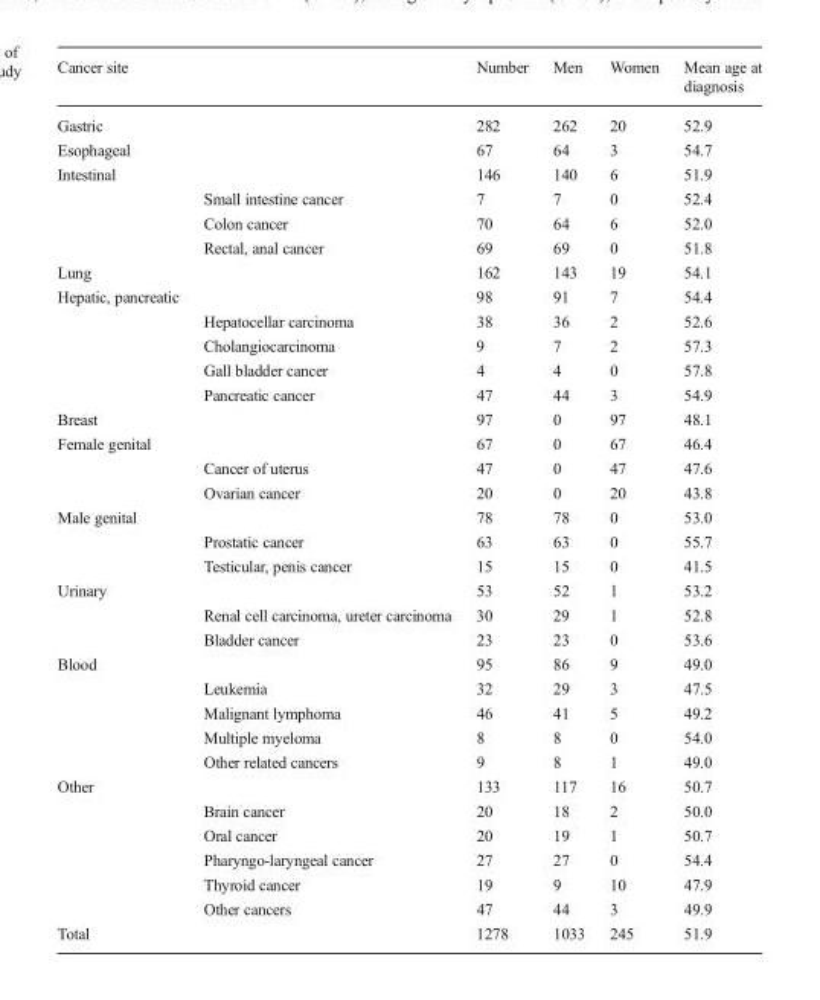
<table><thead><tr><td>Cancer site</td><td></td><td>Number</td><td>Men</td><td>Women</td><td>Mean age at diagnosis</td></tr></thead><tbody><tr><td>Gastric</td><td></td><td>282</td><td>262</td><td>20</td><td>52.9</td></tr><tr><td>Esophageal</td><td></td><td>67</td><td>64</td><td>3</td><td>54.7</td></tr><tr><td rowspan="4">Intestinal</td><td></td><td>146</td><td>140</td><td>6</td><td>51.9</td></tr><tr><td>Small intestine cancer</td><td>7</td><td>7</td><td>0</td><td>52.4</td></tr><tr><td>Colon cancer</td><td>70</td><td>64</td><td>6</td><td>52.0</td></tr><tr><td>Rectal, anal cancer</td><td>69</td><td>69</td><td>0</td><td>51.8</td></tr><tr><td>Lung</td><td></td><td>162</td><td>143</td><td>19</td><td>54.1</td></tr><tr><td rowspan="5">Hepatic, pancreatic</td><td></td><td>98</td><td>91</td><td>7</td><td>54.4</td></tr><tr><td>Hepatocellar carcinoma</td><td>38</td><td>36</td><td>2</td><td>52.6</td></tr><tr><td>Cholangiocarcinoma</td><td>9</td><td>7</td><td>2</td><td>57.3</td></tr><tr><td>Gall bladder cancer</td><td>4</td><td>4</td><td>0</td><td>57.8</td></tr><tr><td>Pancreatic cancer</td><td>47</td><td>44</td><td>3</td><td>54.9</td></tr><tr><td>Breast</td><td></td><td>97</td><td>0</td><td>97</td><td>48.1</td></tr><tr><td rowspan="3">Female genital</td><td></td><td>67</td><td>0</td><td>67</td><td>46.4</td></tr><tr><td>Cancer of uterus</td><td>47</td><td>0</td><td>47</td><td>47.6</td></tr><tr><td>Ovarian cancer</td><td>20</td><td>0</td><td>20</td><td>43.8</td></tr><tr><td rowspan="3">Male genital</td><td></td><td>78</td><td>78</td><td>0</td><td>53.0</td></tr><tr><td>Prostatic cancer</td><td>63</td><td>63</td><td>0</td><td>55.7</td></tr><tr><td>Testicular, penis cancer</td><td>15</td><td>15</td><td>0</td><td>41.5</td></tr><tr><td rowspan="3">Urinary</td><td></td><td>53</td><td>52</td><td>1</td><td>53.2</td></tr><tr><td>Renal cell carcinoma, ureter carcinoma</td><td>30</td><td>29</td><td>1</td><td>52.8</td></tr><tr><td>Bladder cancer</td><td>23</td><td>23</td><td>0</td><td>53.6</td></tr><tr><td rowspan="5">Blood</td><td></td><td>95</td><td>86</td><td>9</td><td>49.0</td></tr><tr><td>Leukemia</td><td>32</td><td>29</td><td>3</td><td>47.5</td></tr><tr><td>Malignant lymphoma</td><td>46</td><td>41</td><td>5</td><td>49.2</td></tr><tr><td>Multiple myeloma</td><td>8</td><td>8</td><td>0</td><td>54.0</td></tr><tr><td>Other related cancers</td><td>9</td><td>8</td><td>1</td><td>49.0</td></tr><tr><td rowspan="6">Other</td><td></td><td>133</td><td>117</td><td>16</td><td>50.7</td></tr><tr><td>Brain cancer</td><td>20</td><td>18</td><td>2</td><td>50.0</td></tr><tr><td>Oral cancer</td><td>20</td><td>19</td><td>1</td><td>50.7</td></tr><tr><td>Pharyngo-laryngeal cancer</td><td>27</td><td>27</td><td>0</td><td>54.4</td></tr><tr><td>Thyroid cancer</td><td>19</td><td>9</td><td>10</td><td>47.9</td></tr><tr><td>Other cancers</td><td>47</td><td>44</td><td>3</td><td>49.9</td></tr><tr><td>Total</td><td></td><td>1278</td><td>1033</td><td>245</td><td>51.9</td></tr></tbody></table>